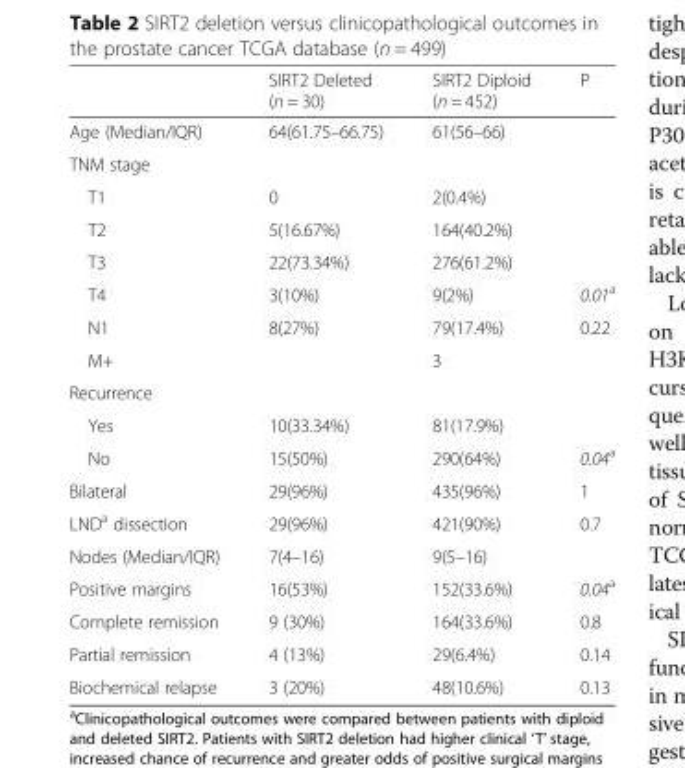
<table><thead><tr><td></td><td>SIRT2 Deleted (n = 30)</td><td>SIRT2 Diploid (n = 452)</td><td>P</td></tr></thead><tbody><tr><td>Age (Median/IQR)</td><td>64(61.75–66.75)</td><td>61(56–66)</td><td></td></tr><tr><td colspan="4">TNM stage</td></tr><tr><td>T1</td><td>0</td><td>2(0.4%)</td><td></td></tr><tr><td>T2</td><td>5(16.67%)</td><td>164(40.2%)</td><td></td></tr><tr><td>T3</td><td>22(73.34%)</td><td>276(61.2%)</td><td></td></tr><tr><td>T4</td><td>3(10%)</td><td>9(2%)</td><td>0.01<sup>a</sup></td></tr><tr><td>N1</td><td>8(27%)</td><td>79(17.4%)</td><td>0.22</td></tr><tr><td>M+</td><td></td><td>3</td><td></td></tr><tr><td colspan="4">Recurrence</td></tr><tr><td>Yes</td><td>10(33.34%)</td><td>81(17.9%)</td><td></td></tr><tr><td>No</td><td>15(50%)</td><td>290(64%)</td><td>0.04<sup>a</sup></td></tr><tr><td>Bilateral</td><td>29(96%)</td><td>435(96%)</td><td>1</td></tr><tr><td>LND<sup>a</sup> dissection</td><td>29(96%)</td><td>421(90%)</td><td>0.7</td></tr><tr><td>Nodes (Median/IQR)</td><td>7(4–16)</td><td>9(5–16)</td><td></td></tr><tr><td>Positive margins</td><td>16(53%)</td><td>152(33.6%)</td><td>0.04<sup>a</sup></td></tr><tr><td>Complete remission</td><td>9 (30%)</td><td>164(33.6%)</td><td>0.8</td></tr><tr><td>Partial remission</td><td>4 (13%)</td><td>29(6.4%)</td><td>0.14</td></tr><tr><td>Biochemical relapse</td><td>3 (20%)</td><td>48(10.6%)</td><td>0.13</td></tr></tbody></table>